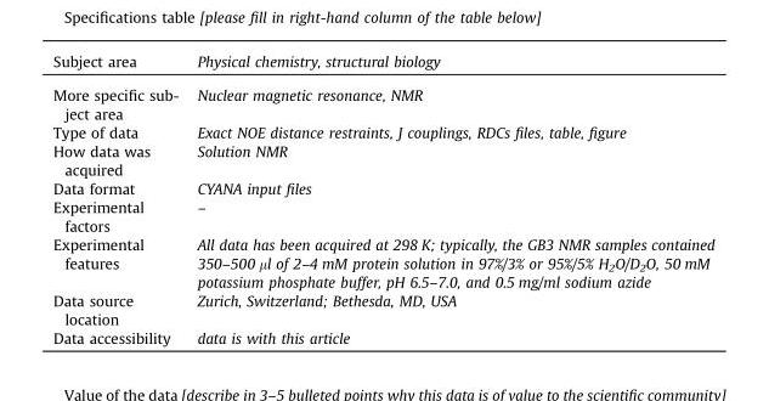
<table><thead><tr><td>Subject area</td><td>Physical chemistry, structural biology</td></tr></thead><tbody><tr><td>More specific sub- ject area</td><td>Nuclear magnetic resonance, NMR</td></tr><tr><td>Type of data</td><td>Exact NOE distance restraints, J couplings, RDCs files, table, figure</td></tr><tr><td>How data was acquired</td><td>Solution NMR</td></tr><tr><td>Data format</td><td>CYANA input files</td></tr><tr><td>Experimental factors</td><td>–</td></tr><tr><td>Experimental features</td><td>All data has been acquired at 298 K; typically, the GB3 NMR samples contained 350–500 µl of 2–4 mM protein solution in 97%/3% or 95%/5% H<sub>2</sub>O/D<sub>2</sub>O, 50 mM potassium phosphate buffer, pH 6.5–7.0, and 0.5 mg/ml sodium azide</td></tr><tr><td>Data source location</td><td>Zurich, Switzerland; Bethesda, MD, USA</td></tr><tr><td>Data accessibility</td><td>data is with this article</td></tr></tbody></table>